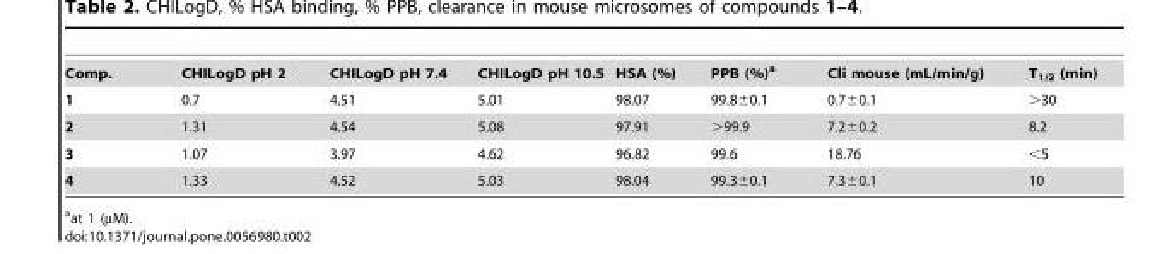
<table><tbody><tr><td>Comp.</td><td>CHILogD pH 2</td><td>CHILogD pH 7.4</td><td>CHILogD pH 10.5</td><td>HSA (%)</td><td>PPB (%)a</td><td>Cli mouse (mL/min/g)</td><td>T<sub>1/2</sub> (min)</td></tr><tr><td>1</td><td>0.7</td><td>4.51</td><td>5.01</td><td>98.07</td><td>99.8±0.1</td><td>0.7±0.1</td><td>&gt;30</td></tr><tr><td>2</td><td>1.31</td><td>4.54</td><td>5.08</td><td>97.91</td><td>&gt;99.9</td><td>7.2±0.2</td><td>8.2</td></tr><tr><td>3</td><td>1.07</td><td>3.97</td><td>4.62</td><td>96.82</td><td>99.6</td><td>18.76</td><td>&lt;5</td></tr><tr><td>4</td><td>1.33</td><td>4.52</td><td>5.03</td><td>98.04</td><td>99.3±0.1</td><td>7.3±0.1</td><td>10</td></tr></tbody></table>